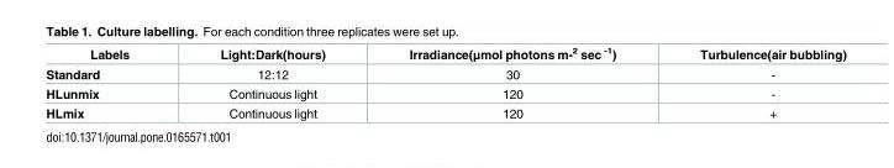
<table><thead><tr><td>Labels</td><td>Light:Dark(hours)</td><td>Irradiance(μmol photons m-<sup>2</sup> sec <sup>-1</sup>)</td><td>Turbulence(air bubbling)</td></tr></thead><tbody><tr><td>Standard</td><td>12:12</td><td>30</td><td>-</td></tr><tr><td>HLunmix</td><td>Continuous light</td><td>120</td><td>-</td></tr><tr><td>HLmix</td><td>Continuous light</td><td>120</td><td>+</td></tr></tbody></table>